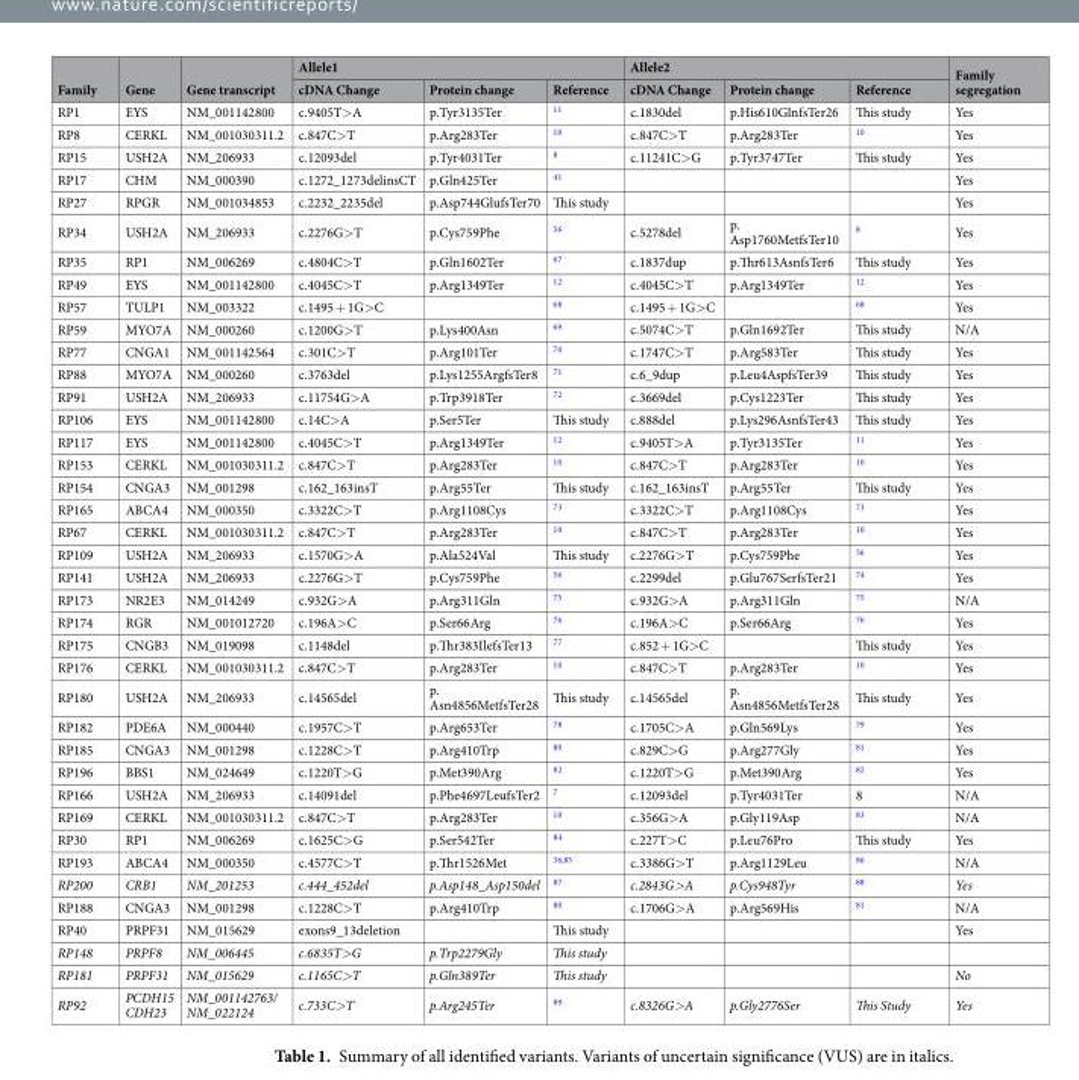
<table><thead><tr><td rowspan="2">Family</td><td rowspan="2">Gene</td><td rowspan="2">Gene transcript</td><td colspan="3">Allele1</td><td colspan="3">Allele2</td><td rowspan="2">Family segregation</td></tr><tr><td>cDNA Change</td><td>Protein change</td><td>Reference</td><td>cDNA Change</td><td>Protein change</td><td>Reference</td></tr></thead><tbody><tr><td>RP1</td><td>EYS</td><td>NM_001142800</td><td>c.9405T&gt;A</td><td>p.Tyr3135Ter</td><td><sup>11</sup></td><td>c.1830del</td><td>p.His610GlnfsTer26</td><td>This study</td><td>Yes</td></tr><tr><td>RP8</td><td>CERKL</td><td>NM_001030311.2</td><td>c.847C&gt;T</td><td>p.Arg283Ter</td><td><sup>10</sup></td><td>c.847C&gt;T</td><td>p.Arg283Ter</td><td><sup>10</sup></td><td>Yes</td></tr><tr><td>RP15</td><td>USH2A</td><td>NM_206933</td><td>c.12093del</td><td>p.Tyr4031Ter</td><td><sup>8</sup></td><td>c.11241C&gt;G</td><td>p.Tyr3747Ter</td><td>This study</td><td>Yes</td></tr><tr><td>RP17</td><td>CHM</td><td>NM_000390</td><td>c.1272_1273delinsCT</td><td>p.Gln425Ter</td><td><sup>41</sup></td><td></td><td></td><td></td><td>Yes</td></tr><tr><td>RP27</td><td>RPGR</td><td>NM_001034853</td><td>c.2232_2235del</td><td>p.Asp744GlufsTer70</td><td>This study</td><td></td><td></td><td></td><td>Yes</td></tr><tr><td>RP34</td><td>USH2A</td><td>NM_206933</td><td>c.2276G&gt;T</td><td>p.Cys759Phe</td><td><sup>56</sup></td><td>c.5278del</td><td>p. Asp1760MetfsTer10</td><td><sup>8</sup></td><td>Yes</td></tr><tr><td>RP35</td><td>RP1</td><td>NM_006269</td><td>c.4804C&gt;T</td><td>p.Gln1602Ter</td><td><sup>67</sup></td><td>c.1837dup</td><td>p.Thr613AsnfsTer6</td><td>This study</td><td>Yes</td></tr><tr><td>RP49</td><td>EYS</td><td>NM_001142800</td><td>c.4045C&gt;T</td><td>p.Arg1349Ter</td><td><sup>12</sup></td><td>c.4045C&gt;T</td><td>p.Arg1349Ter</td><td><sup>12</sup></td><td>Yes</td></tr><tr><td>RP57</td><td>TULP1</td><td>NM_003322</td><td>c.1495 + 1G&gt;C</td><td></td><td><sup>68</sup></td><td>c.1495 + 1G&gt;C</td><td></td><td><sup>68</sup></td><td>Yes</td></tr><tr><td>RP59</td><td>MYO7A</td><td>NM_000260</td><td>c.1200G&gt;T</td><td>p.Lys400Asn</td><td><sup>69</sup></td><td>c.5074C&gt;T</td><td>p.Gln1692Ter</td><td>This study</td><td>N/A</td></tr><tr><td>RP77</td><td>CNGA1</td><td>NM_001142564</td><td>c.301C&gt;T</td><td>p.Arg101Ter</td><td><sup>70</sup></td><td>c.1747C&gt;T</td><td>p.Arg583Ter</td><td>This study</td><td>Yes</td></tr><tr><td>RP88</td><td>MYO7A</td><td>NM_000260</td><td>c.3763del</td><td>p.Lys1255ArgfsTer8</td><td><sup>71</sup></td><td>c.6_9dup</td><td>p.Leu4AspfsTer39</td><td>This study</td><td>Yes</td></tr><tr><td>RP91</td><td>USH2A</td><td>NM_206933</td><td>c.11754G&gt;A</td><td>p.Trp3918Ter</td><td><sup>72</sup></td><td>c.3669del</td><td>p.Cys1223Ter</td><td>This study</td><td>Yes</td></tr><tr><td>RP106</td><td>EYS</td><td>NM_001142800</td><td>c.14C&gt;A</td><td>p.Ser5Ter</td><td>This study</td><td>c.888del</td><td>p.Lys296AsnfsTer43</td><td>This study</td><td>Yes</td></tr><tr><td>RP117</td><td>EYS</td><td>NM_001142800</td><td>c.4045C&gt;T</td><td>p.Arg1349Ter</td><td><sup>12</sup></td><td>c.9405T&gt;A</td><td>p.Tyr3135Ter</td><td><sup>11</sup></td><td>Yes</td></tr><tr><td>RP153</td><td>CERKL</td><td>NM_001030311.2</td><td>c.847C&gt;T</td><td>p.Arg283Ter</td><td><sup>10</sup></td><td>c.847C&gt;T</td><td>p.Arg283Ter</td><td><sup>10</sup></td><td>Yes</td></tr><tr><td>RP154</td><td>CNGA3</td><td>NM_001298</td><td>c.162_163insT</td><td>p.Arg55Ter</td><td>This study</td><td>c.162_163insT</td><td>p.Arg55Ter</td><td>This study</td><td>Yes</td></tr><tr><td>RP165</td><td>ABCA4</td><td>NM_000350</td><td>c.3322C&gt;T</td><td>p.Arg1108Cys</td><td><sup>73</sup></td><td>c.3322C&gt;T</td><td>p.Arg1108Cys</td><td><sup>73</sup></td><td>Yes</td></tr><tr><td>RP67</td><td>CERKL</td><td>NM_001030311.2</td><td>c.847C&gt;T</td><td>p.Arg283Ter</td><td><sup>10</sup></td><td>c.847C&gt;T</td><td>p.Arg283Ter</td><td><sup>10</sup></td><td>Yes</td></tr><tr><td>RP109</td><td>USH2A</td><td>NM_206933</td><td>c.1570G&gt;A</td><td>p.Ala524Val</td><td>This study</td><td>c.2276G&gt;T</td><td>p.Cys759Phe</td><td><sup>56</sup></td><td>Yes</td></tr><tr><td>RP141</td><td>USH2A</td><td>NM_206933</td><td>c.2276G&gt;T</td><td>p.Cys759Phe</td><td><sup>56</sup></td><td>c.2299del</td><td>p.Glu767SerfsTer21</td><td><sup>74</sup></td><td>Yes</td></tr><tr><td>RP173</td><td>NR2E3</td><td>NM_014249</td><td>c.932G&gt;A</td><td>p.Arg311Gln</td><td><sup>75</sup></td><td>c.932G&gt;A</td><td>p.Arg311Gln</td><td><sup>75</sup></td><td>N/A</td></tr><tr><td>RP174</td><td>RGR</td><td>NM_001012720</td><td>c.196A&gt;C</td><td>p.Ser66Arg</td><td><sup>76</sup></td><td>c.196A&gt;C</td><td>p.Ser66Arg</td><td><sup>76</sup></td><td>Yes</td></tr><tr><td>RP175</td><td>CNGB3</td><td>NM_019098</td><td>c.1148del</td><td>p.Thr383IlefsTer13</td><td><sup>77</sup></td><td>c.852 + 1G&gt;C</td><td></td><td>This study</td><td>Yes</td></tr><tr><td>RP176</td><td>CERKL</td><td>NM_001030311.2</td><td>c.847C&gt;T</td><td>p.Arg283Ter</td><td><sup>10</sup></td><td>c.847C&gt;T</td><td>p.Arg283Ter</td><td><sup>10</sup></td><td>Yes</td></tr><tr><td>RP180</td><td>USH2A</td><td>NM_206933</td><td>c.14565del</td><td>p. Asn4856MetfsTer28</td><td>This study</td><td>c.14565del</td><td>p. Asn4856MetfsTer28</td><td>This study</td><td>Yes</td></tr><tr><td>RP182</td><td>PDE6A</td><td>NM_000440</td><td>c.1957C&gt;T</td><td>p.Arg653Ter</td><td><sup>78</sup></td><td>c.1705C&gt;A</td><td>p.Gln569Lys</td><td><sup>79</sup></td><td>Yes</td></tr><tr><td>RP185</td><td>CNGA3</td><td>NM_001298</td><td>c.1228C&gt;T</td><td>p.Arg410Trp</td><td><sup>80</sup></td><td>c.829C&gt;G</td><td>p.Arg277Gly</td><td><sup>81</sup></td><td>Yes</td></tr><tr><td>RP196</td><td>BBS1</td><td>NM_024649</td><td>c.1220T&gt;G</td><td>p.Met390Arg</td><td><sup>82</sup></td><td>c.1220T&gt;G</td><td>p.Met390Arg</td><td><sup>82</sup></td><td>Yes</td></tr><tr><td>RP166</td><td>USH2A</td><td>NM_206933</td><td>c.14091del</td><td>p.Phe4697LeufsTer2</td><td><sup>7</sup></td><td>c.12093del</td><td>p.Tyr4031Ter</td><td>8</td><td>N/A</td></tr><tr><td>RP169</td><td>CERKL</td><td>NM_001030311.2</td><td>c.847C&gt;T</td><td>p.Arg283Ter</td><td><sup>10</sup></td><td>c.356G&gt;A</td><td>p.Gly119Asp</td><td><sup>83</sup></td><td>N/A</td></tr><tr><td>RP30</td><td>RP1</td><td>NM_006269</td><td>c.1625C&gt;G</td><td>p.Ser542Ter</td><td><sup>84</sup></td><td>c.227T&gt;C</td><td>p.Leu76Pro</td><td>This study</td><td>Yes</td></tr><tr><td>RP193</td><td>ABCA4</td><td>NM_000350</td><td>c.4577C&gt;T</td><td>p.Thr1526Met</td><td><sup>36,85</sup></td><td>c.3386G&gt;T</td><td>p.Arg1129Leu</td><td><sup>86</sup></td><td>N/A</td></tr><tr><td>RP200</td><td>CRB1</td><td>NM_201253</td><td>c.444_452del</td><td>p.Asp148_Asp150del</td><td><sup>87</sup></td><td>c.2843G&gt;A</td><td>p.Cys948Tyr</td><td><sup>88</sup></td><td>Yes</td></tr><tr><td>RP188</td><td>CNGA3</td><td>NM_001298</td><td>c.1228C&gt;T</td><td>p.Arg410Trp</td><td><sup>80</sup></td><td>c.1706G&gt;A</td><td>p.Arg569His</td><td><sup>81</sup></td><td>N/A</td></tr><tr><td>RP40</td><td>PRPF31</td><td>NM_015629</td><td>exons9_13deletion</td><td></td><td>This study</td><td></td><td></td><td></td><td>Yes</td></tr><tr><td>RP148</td><td>PRPF8</td><td>NM_006445</td><td>c.6835T&gt;G</td><td>p.Trp2279Gly</td><td>This study</td><td></td><td></td><td></td><td></td></tr><tr><td>RP181</td><td>PRPF31</td><td>NM_015629</td><td>c.1165C&gt;T</td><td>p.Gln389Ter</td><td>This study</td><td></td><td></td><td></td><td>No</td></tr><tr><td>RP92</td><td>PCDH15 CDH23</td><td>NM_001142763/ NM_022124</td><td>c.733C&gt;T</td><td>p.Arg245Ter</td><td><sup>89</sup></td><td>c.8326G&gt;A</td><td>p.Gly2776Ser</td><td>This Study</td><td>Yes</td></tr></tbody></table>